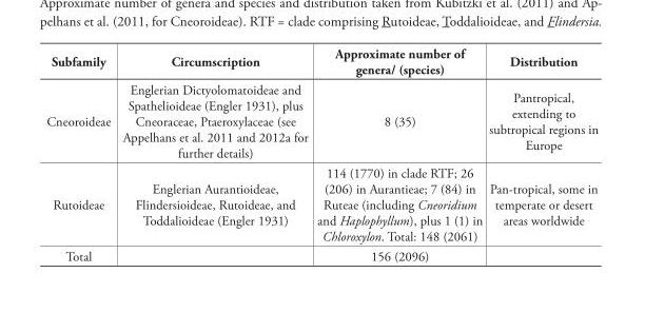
<table><thead><tr><td>Subfamily</td><td>Circumscription</td><td>Approximate number of genera/ (species)</td><td>Distribution</td></tr></thead><tbody><tr><td>Cneoroideae</td><td>Englerian Dictyolomatoideae and Spathelioideae (Engler 1931), plus Cneoraceae, Ptaeroxylaceae (see Appelhans et al. 2011 and 2012a for further details)</td><td>8 (35)</td><td>Pantropical, extending to subtropical regions in Europe</td></tr><tr><td>Rutoideae</td><td>Englerian Aurantioideae, Flindersioideae, Rutoideae, and Toddalioideae (Engler 1931)</td><td>114 (1770) in clade RTF; 26 (206) in Aurantieae; 7 (84) in Ruteae (including Cneoridium and Haplophyllum), plus 1 (1) in Chloroxylon. Total: 148 (2061)</td><td>Pan-tropical, some in temperate or desert areas worldwide</td></tr><tr><td>Total</td><td></td><td>156 (2096)</td><td></td></tr></tbody></table>